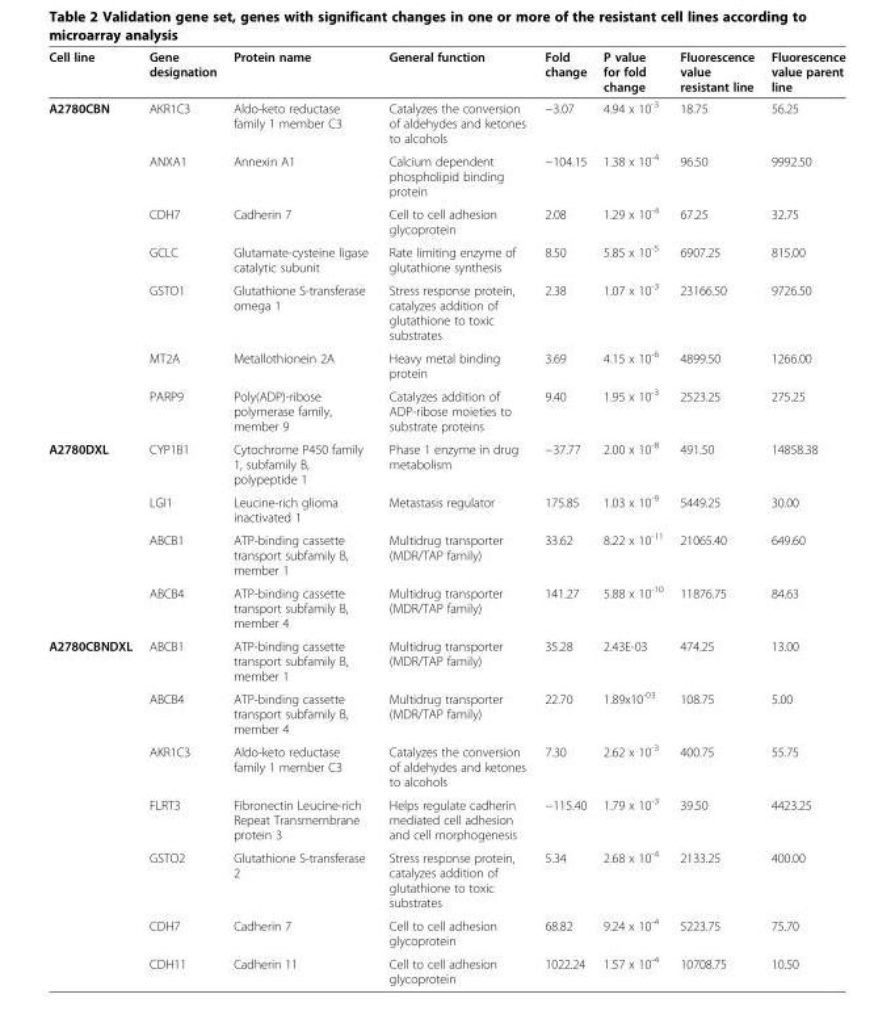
<table><thead><tr><td>Cell line</td><td>Gene designation</td><td>Protein name</td><td>General function</td><td>Fold change</td><td>P value for fold change</td><td>Fluorescence value resistant line</td><td>Fluorescence value parent line</td></tr></thead><tbody><tr><td rowspan="7">A2780CBN</td><td>AKR1C3</td><td>Aldo-keto reductase family 1 member C3</td><td>Catalyzes the conversion of aldehydes and ketones to alcohols</td><td>−3.07</td><td>4.94 x 10<sup>-3</sup></td><td>18.75</td><td>56.25</td></tr><tr><td>ANXA1</td><td>Annexin A1</td><td>Calcium dependent phospholipid binding protein</td><td>−104.15</td><td>1.38 x 10<sup>-4</sup></td><td>96.50</td><td>9992.50</td></tr><tr><td>CDH7</td><td>Cadherin 7</td><td>Cell to cell adhesion glycoprotein</td><td>2.08</td><td>1.29 x 10<sup>-4</sup></td><td>67.25</td><td>32.75</td></tr><tr><td>GCLC</td><td>Glutamate-cysteine ligase catalytic subunit</td><td>Rate limiting enzyme of glutathione synthesis</td><td>8.50</td><td>5.85 x 10<sup>-5</sup></td><td>6907.25</td><td>815.00</td></tr><tr><td>GSTO1</td><td>Glutathione S-transferase omega 1</td><td>Stress response protein, catalyzes addition of glutathione to toxic substrates</td><td>2.38</td><td>1.07 x 10<sup>-3</sup></td><td>23166.50</td><td>9726.50</td></tr><tr><td>MT2A</td><td>Metallothionein 2A</td><td>Heavy metal binding protein</td><td>3.69</td><td>4.15 x 10<sup>-6</sup></td><td>4899.50</td><td>1266.00</td></tr><tr><td>PARP9</td><td>Poly(ADP)-ribose polymerase family, member 9</td><td>Catalyzes addition of ADP-ribose moieties to substrate proteins</td><td>9.40</td><td>1.95 x 10<sup>-3</sup></td><td>2523.25</td><td>275.25</td></tr><tr><td rowspan="4">A2780DXL</td><td>CYP1B1</td><td>Cytochrome P450 family 1, subfamily B, polypeptide 1</td><td>Phase 1 enzyme in drug metabolism</td><td>−37.77</td><td>2.00 x 10<sup>-8</sup></td><td>491.50</td><td>14858.38</td></tr><tr><td>LGI1</td><td>Leucine-rich glioma inactivated 1</td><td>Metastasis regulator</td><td>175.85</td><td>1.03 x 10<sup>-9</sup></td><td>5449.25</td><td>30.00</td></tr><tr><td>ABCB1</td><td>ATP-binding cassette transport subfamily B, member 1</td><td>Multidrug transporter (MDR/TAP family)</td><td>33.62</td><td>8.22 x 10<sup>-11</sup></td><td>21065.40</td><td>649.60</td></tr><tr><td>ABCB4</td><td>ATP-binding cassette transport subfamily B, member 4</td><td>Multidrug transporter (MDR/TAP family)</td><td>141.27</td><td>5.88 x 10<sup>-10</sup></td><td>11876.75</td><td>84.63</td></tr><tr><td rowspan="7">A2780CBNDXL</td><td>ABCB1</td><td>ATP-binding cassette transport subfamily B, member 1</td><td>Multidrug transporter (MDR/TAP family)</td><td>35.28</td><td>2.43E-03</td><td>474.25</td><td>13.00</td></tr><tr><td>ABCB4</td><td>ATP-binding cassette transport subfamily B, member 4</td><td>Multidrug transporter (MDR/TAP family)</td><td>22.70</td><td>1.89x10<sup>-03</sup></td><td>108.75</td><td>5.00</td></tr><tr><td>AKR1C3</td><td>Aldo-keto reductase family 1 member C3</td><td>Catalyzes the conversion of aldehydes and ketones to alcohols</td><td>7.30</td><td>2.62 x 10<sup>-3</sup></td><td>400.75</td><td>55.75</td></tr><tr><td>FLRT3</td><td>Fibronectin Leucine-rich Repeat Transmembrane protein 3</td><td>Helps regulate cadherin mediated cell adhesion and cell morphogenesis</td><td>−115.40</td><td>1.79 x 10<sup>-3</sup></td><td>39.50</td><td>4423.25</td></tr><tr><td>GSTO2</td><td>Glutathione S-transferase 2</td><td>Stress response protein, catalyzes addition of glutathione to toxic substrates</td><td>5.34</td><td>2.68 x 10<sup>-4</sup></td><td>2133.25</td><td>400.00</td></tr><tr><td>CDH7</td><td>Cadherin 7</td><td>Cell to cell adhesion glycoprotein</td><td>68.82</td><td>9.24 x 10<sup>-4</sup></td><td>5223.75</td><td>75.70</td></tr><tr><td>CDH11</td><td>Cadherin 11</td><td>Cell to cell adhesion glycoprotein</td><td>1022.24</td><td>1.57 x 10<sup>-4</sup></td><td>10708.75</td><td>10.50</td></tr></tbody></table>